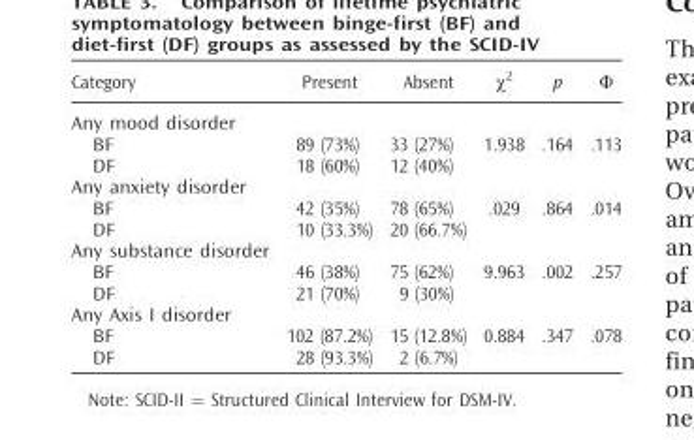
<table><thead><tr><td>Category</td><td>Present</td><td>Absent</td><td>χ<sup>2</sup></td><td>p</td><td>Φ</td></tr></thead><tbody><tr><td colspan="6">Any mood disorder</td></tr><tr><td>BF</td><td>89 (73%)</td><td>33 (27%)</td><td>1.938</td><td>.164</td><td>.113</td></tr><tr><td>DF</td><td>18 (60%)</td><td>12 (40%)</td><td></td><td></td><td></td></tr><tr><td colspan="6">Any anxiety disorder</td></tr><tr><td>BF</td><td>42 (35%)</td><td>78 (65%)</td><td>.029</td><td>.864</td><td>.014</td></tr><tr><td>DF</td><td>10 (33.3%)</td><td>20 (66.7%)</td><td></td><td></td><td></td></tr><tr><td colspan="6">Any substance disorder</td></tr><tr><td>BF</td><td>46 (38%)</td><td>75 (62%)</td><td>9.963</td><td>.002</td><td>.257</td></tr><tr><td>DF</td><td>21 (70%)</td><td>9 (30%)</td><td></td><td></td><td></td></tr><tr><td colspan="6">Any Axis I disorder</td></tr><tr><td>BF</td><td>102 (87.2%)</td><td>15 (12.8%)</td><td>0.884</td><td>.347</td><td>.078</td></tr><tr><td>DF</td><td>28 (93.3%)</td><td>2 (6.7%)</td><td></td><td></td><td></td></tr></tbody></table>